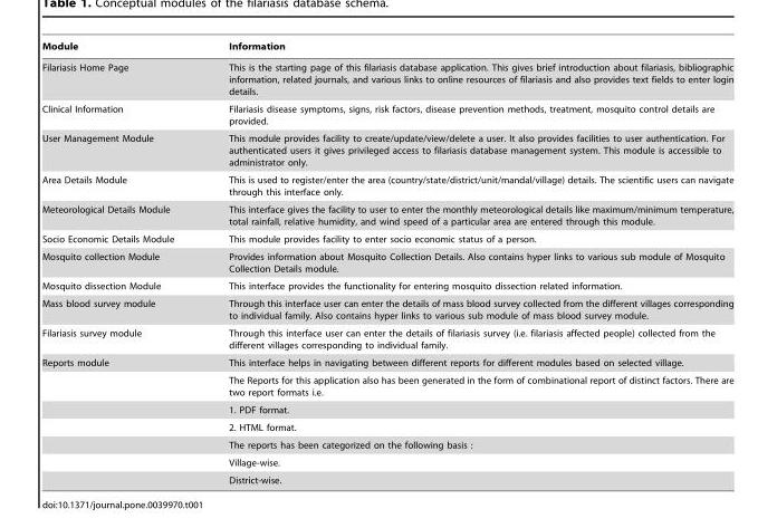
<table><thead><tr><td>Module</td><td>Information</td></tr></thead><tbody><tr><td>Filariasis Home Page</td><td>This is the starting page of this filariasis database application. This gives brief introduction about filariasis, bibliographic information, related journals, and various links to online resources of filariasis and also provides text fields to enter login details.</td></tr><tr><td>Clinical Information</td><td>Filariasis disease symptoms, signs, risk factors, disease prevention methods, treatment, mosquito control details are provided.</td></tr><tr><td>User Management Module</td><td>This module provides facility to create/update/view/delete a user. It also provides facilities to user authentication. For authenticated users it gives privileged access to filariasis database management system. This module is accessible to administrator only.</td></tr><tr><td>Area Details Module</td><td>This is used to register/enter the area (country/state/district/unit/mandal/village) details. The scientific users can navigate through this interface only.</td></tr><tr><td>Meteorological Details Module</td><td>This interface gives the facility to user to enter the monthly meteorological details like maximum/minimum temperature, total rainfall, relative humidity, and wind speed of a particular area are entered through this module.</td></tr><tr><td>Socio Economic Details Module</td><td>This module provides facility to enter socio economic status of a person.</td></tr><tr><td>Mosquito collection Module</td><td>Provides information about Mosquito Collection Details. Also contains hyper links to various sub module of Mosquito Collection Details module.</td></tr><tr><td>Mosquito dissection Module</td><td>This interface provides the functionality for entering mosquito dissection related information.</td></tr><tr><td>Mass blood survey module</td><td>Through this interface user can enter the details of mass blood survey collected from the different villages corresponding to individual family. Also contains hyper links to various sub module of mass blood survey module.</td></tr><tr><td>Filariasis survey module</td><td>Through this interface user can enter the details of filariasis survey (i.e. filariasis affected people) collected from the different villages corresponding to individual family.</td></tr><tr><td rowspan="7">Reports module</td><td>This interface helps in navigating between different reports for different modules based on selected village.</td></tr><tr><td>The Reports for this application also has been generated in the form of combinational report of distinct factors. There are two report formats i.e.</td></tr><tr><td>1. PDF format.</td></tr><tr><td>2. HTML format.</td></tr><tr><td>The reports has been categorized on the following basis :</td></tr><tr><td>Village-wise.</td></tr><tr><td>District-wise.</td></tr></tbody></table>